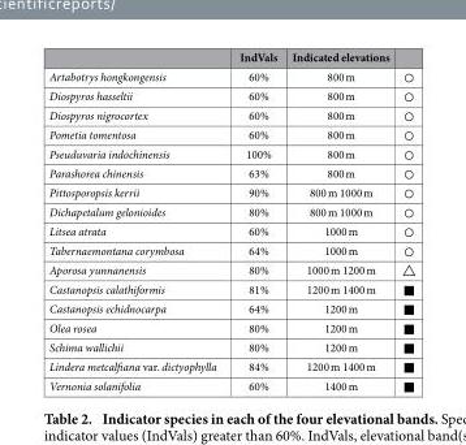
<table><thead><tr><td></td><td>IndVals</td><td>Indicated elevations</td><td></td></tr></thead><tbody><tr><td>Artabotrys hongkongensis</td><td>60%</td><td>800 m</td><td>○</td></tr><tr><td>Diospyros hasseltii</td><td>60%</td><td>800 m</td><td>○</td></tr><tr><td>Diospyros nigrocortex</td><td>60%</td><td>800 m</td><td>○</td></tr><tr><td>Pometia tomentosa</td><td>60%</td><td>800 m</td><td>○</td></tr><tr><td>Pseuduvaria indochinensis</td><td>100%</td><td>800 m</td><td>○</td></tr><tr><td>Parashorea chinensis</td><td>63%</td><td>800 m</td><td>○</td></tr><tr><td>Pittosporopsis kerrii</td><td>90%</td><td>800 m 1000 m</td><td>○</td></tr><tr><td>Dichapetalum gelonioides</td><td>80%</td><td>800 m 1000 m</td><td>○</td></tr><tr><td>Litsea atrata</td><td>60%</td><td>1000 m</td><td>○</td></tr><tr><td>Tabernaemontana corymbosa</td><td>64%</td><td>1000 m</td><td>○</td></tr><tr><td>Aporosa yunnanensis</td><td>80%</td><td>1000 m 1200 m</td><td>△</td></tr><tr><td>Castanopsis calathiformis</td><td>81%</td><td>1200 m 1400 m</td><td>■</td></tr><tr><td>Castanopsis echidnocarpa</td><td>64%</td><td>1200 m</td><td>■</td></tr><tr><td>Olea rosea</td><td>80%</td><td>1200 m</td><td>■</td></tr><tr><td>Schima wallichii</td><td>80%</td><td>1200 m</td><td>■</td></tr><tr><td>Lindera metcalfiana var. dictyophylla</td><td>84%</td><td>1200 m 1400 m</td><td>■</td></tr><tr><td>Vernonia solanifolia</td><td>60%</td><td>1400 m</td><td>■</td></tr></tbody></table>